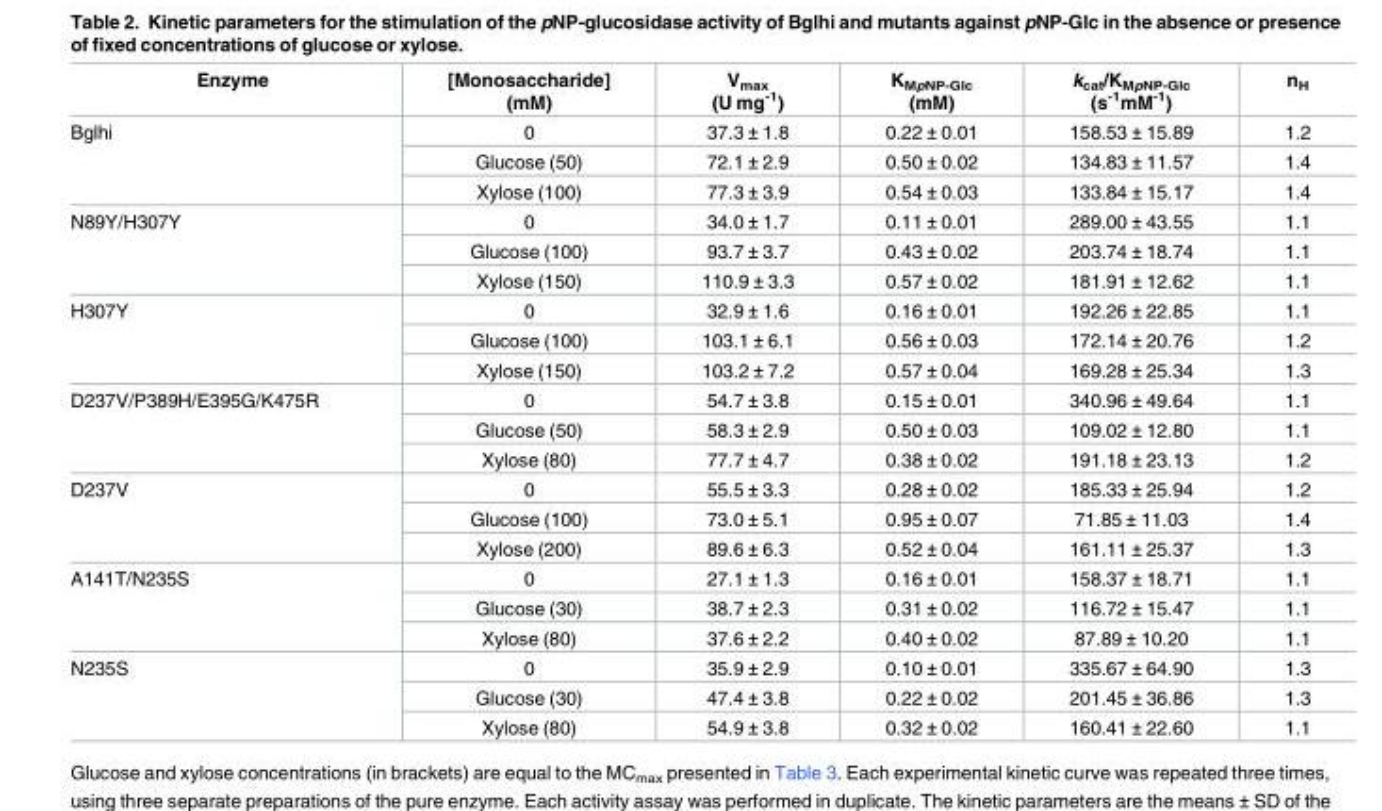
<table><thead><tr><td>Enzyme</td><td>[Monosaccharide] (mM)</td><td>V<sub>max</sub> (U mg<sup>-1</sup>)</td><td>K<sub>MpNP-Glc</sub> (mM)</td><td>k<sub>cat</sub>/K<sub>MpNP-Glc</sub> (s<sup>-1</sup>mM<sup>-1</sup>)</td><td>n<sub>H</sub></td></tr></thead><tbody><tr><td rowspan="3">Bglhi</td><td>0</td><td>37.3 ± 1.8</td><td>0.22 ± 0.01</td><td>158.53 ± 15.89</td><td>1.2</td></tr><tr><td>Glucose (50)</td><td>72.1 ± 2.9</td><td>0.50 ± 0.02</td><td>134.83 ± 11.57</td><td>1.4</td></tr><tr><td>Xylose (100)</td><td>77.3 ± 3.9</td><td>0.54 ± 0.03</td><td>133.84 ± 15.17</td><td>1.4</td></tr><tr><td rowspan="3">N89Y/H307Y</td><td>0</td><td>34.0 ± 1.7</td><td>0.11 ± 0.01</td><td>289.00 ± 43.55</td><td>1.1</td></tr><tr><td>Glucose (100)</td><td>93.7 ± 3.7</td><td>0.43 ± 0.02</td><td>203.74 ± 18.74</td><td>1.1</td></tr><tr><td>Xylose (150)</td><td>110.9 ± 3.3</td><td>0.57 ± 0.02</td><td>181.91 ± 12.62</td><td>1.1</td></tr><tr><td rowspan="3">H307Y</td><td>0</td><td>32.9 ± 1.6</td><td>0.16 ± 0.01</td><td>192.26 ± 22.85</td><td>1.1</td></tr><tr><td>Glucose (100)</td><td>103.1 ± 6.1</td><td>0.56 ± 0.03</td><td>172.14 ± 20.76</td><td>1.2</td></tr><tr><td>Xylose (150)</td><td>103.2 ± 7.2</td><td>0.57 ± 0.04</td><td>169.28 ± 25.34</td><td>1.3</td></tr><tr><td rowspan="3">D237V/P389H/E395G/K475R</td><td>0</td><td>54.7 ± 3.8</td><td>0.15 ± 0.01</td><td>340.96 ± 49.64</td><td>1.1</td></tr><tr><td>Glucose (50)</td><td>58.3 ± 2.9</td><td>0.50 ± 0.03</td><td>109.02 ± 12.80</td><td>1.1</td></tr><tr><td>Xylose (80)</td><td>77.7 ± 4.7</td><td>0.38 ± 0.02</td><td>191.18 ± 23.13</td><td>1.2</td></tr><tr><td rowspan="3">D237V</td><td>0</td><td>55.5 ± 3.3</td><td>0.28 ± 0.02</td><td>185.33 ± 25.94</td><td>1.2</td></tr><tr><td>Glucose (100)</td><td>73.0 ± 5.1</td><td>0.95 ± 0.07</td><td>71.85 ± 11.03</td><td>1.4</td></tr><tr><td>Xylose (200)</td><td>89.6 ± 6.3</td><td>0.52 ± 0.04</td><td>161.11 ± 25.37</td><td>1.3</td></tr><tr><td rowspan="3">A141T/N235S</td><td>0</td><td>27.1 ± 1.3</td><td>0.16 ± 0.01</td><td>158.37 ± 18.71</td><td>1.1</td></tr><tr><td>Glucose (30)</td><td>38.7 ± 2.3</td><td>0.31 ± 0.02</td><td>116.72 ± 15.47</td><td>1.1</td></tr><tr><td>Xylose (80)</td><td>37.6 ± 2.2</td><td>0.40 ± 0.02</td><td>87.89 ± 10.20</td><td>1.1</td></tr><tr><td rowspan="3">N235S</td><td>0</td><td>35.9 ± 2.9</td><td>0.10 ± 0.01</td><td>335.67 ± 64.90</td><td>1.3</td></tr><tr><td>Glucose (30)</td><td>47.4 ± 3.8</td><td>0.22 ± 0.02</td><td>201.45 ± 36.86</td><td>1.3</td></tr><tr><td>Xylose (80)</td><td>54.9 ± 3.8</td><td>0.32 ± 0.02</td><td>160.41 ± 22.60</td><td>1.1</td></tr></tbody></table>